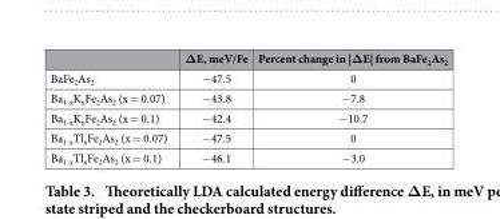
<table><thead><tr><td></td><td>ΔE, meV/Fe</td><td>Percent change in |ΔE| from BaFe<sub>2</sub>As<sub>2</sub></td></tr></thead><tbody><tr><td>BaFe<sub>2</sub>As<sub>2</sub></td><td>−47.5</td><td>0</td></tr><tr><td>Ba<sub>1-x</sub>K<sub>x</sub>Fe<sub>2</sub>As<sub>2</sub> (x = 0.07)</td><td>−43.8</td><td>−7.8</td></tr><tr><td>Ba<sub>1-x</sub>K<sub>x</sub>Fe<sub>2</sub>As<sub>2</sub> (x = 0.1)</td><td>−42.4</td><td>−10.7</td></tr><tr><td>Ba<sub>1-x</sub>Tl<sub>x</sub>Fe<sub>2</sub>As<sub>2</sub> (x = 0.07)</td><td>−47.5</td><td>0</td></tr><tr><td>Ba<sub>1-x</sub>Tl<sub>x</sub>Fe<sub>2</sub>As<sub>2</sub> (x = 0.1)</td><td>−46.1</td><td>−3.0</td></tr></tbody></table>